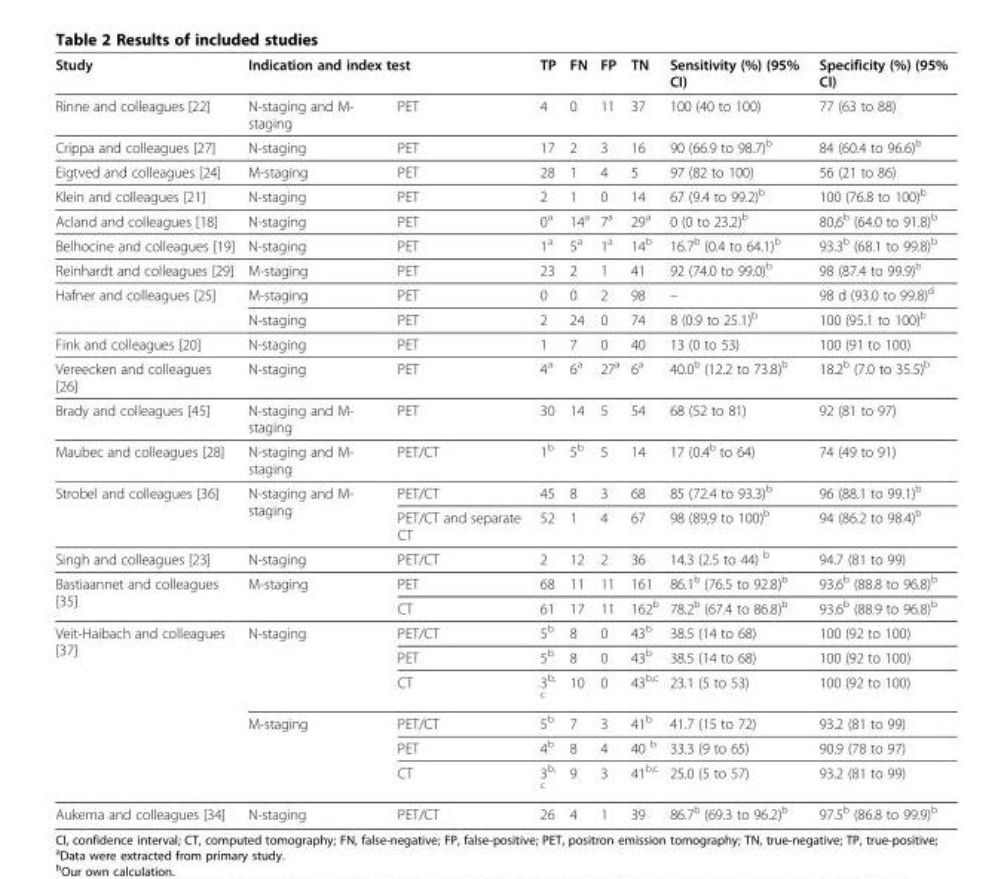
<table><thead><tr><td rowspan="2">Study Rinne and colleagues [22]</td><td colspan="2">Indication and index test</td><td rowspan="2">TP 4</td><td rowspan="2">FN 0</td><td rowspan="2">FP 11</td><td rowspan="2">TN 37</td><td rowspan="2">Sensitivity (%) (95% CI) 100 (40 to 100)</td><td rowspan="2">Specificity (%) (95% CI) 77 (63 to 88)</td></tr><tr><td>N-staging and M- staging</td><td>PET</td></tr></thead><tbody><tr><td>Crippa and colleagues [27]</td><td>N-staging</td><td>PET</td><td>17</td><td>2</td><td>3</td><td>16</td><td>90 (66.9 to 98.7)<sup>b</sup></td><td>84 (60.4 to 96.6)<sup>b</sup></td></tr><tr><td>Eigtved and colleagues [24]</td><td>M-staging</td><td>PET</td><td>28</td><td>1</td><td>4</td><td>5</td><td>97 (82 to 100)</td><td>56 (21 to 86)</td></tr><tr><td>Klein and colleagues [21]</td><td>N-staging</td><td>PET</td><td>2</td><td>1</td><td>0</td><td>14</td><td>67 (9.4 to 99.2)<sup>b</sup></td><td>100 (76.8 to 100)<sup>b</sup></td></tr><tr><td>Acland and colleagues [18]</td><td>N-staging</td><td>PET</td><td>0<sup>a</sup></td><td>14<sup>a</sup></td><td>7<sup>a</sup></td><td>29<sup>a</sup></td><td>0 (0 to 23.2)<sup>b</sup></td><td>80,6<sup>b</sup> (64.0 to 91.8)<sup>b</sup></td></tr><tr><td>Belhocine and colleagues [19]</td><td>N-staging</td><td>PET</td><td>1<sup>a</sup></td><td>5<sup>a</sup></td><td>1<sup>a</sup></td><td>14<sup>b</sup></td><td>16.7<sup>b</sup> (0.4 to 64.1)<sup>b</sup></td><td>93.3<sup>b</sup> (68.1 to 99.8)<sup>b</sup></td></tr><tr><td>Reinhardt and colleagues [29]</td><td>M-staging</td><td>PET</td><td>23</td><td>2</td><td>1</td><td>41</td><td>92 (74.0 to 99.0)<sup>b</sup></td><td>98 (87.4 to 99.9)<sup>b</sup></td></tr><tr><td rowspan="2">Hafner and colleagues [25]</td><td>M-staging</td><td>PET</td><td>0</td><td>0</td><td>2</td><td>98</td><td>–</td><td>98 d (93.0 to 99.8)<sup>d</sup></td></tr><tr><td>N-staging</td><td>PET</td><td>2</td><td>24</td><td>0</td><td>74</td><td>8 (0.9 to 25.1)<sup>b</sup></td><td>100 (95.1 to 100)<sup>b</sup></td></tr><tr><td>Fink and colleagues [20]</td><td>N-staging</td><td>PET</td><td>1</td><td>7</td><td>0</td><td>40</td><td>13 (0 to 53)</td><td>100 (91 to 100)</td></tr><tr><td>Vereecken and colleagues [26]</td><td>N-staging</td><td>PET</td><td>4<sup>a</sup></td><td>6<sup>a</sup></td><td>27<sup>a</sup></td><td>6<sup>a</sup></td><td>40.0<sup>b</sup> (12.2 to 73.8)<sup>b</sup></td><td>18.2<sup>b</sup> (7.0 to 35.5)<sup>b</sup></td></tr><tr><td>Brady and colleagues [45]</td><td>N-staging and M- staging</td><td>PET</td><td>30</td><td>14</td><td>5</td><td>54</td><td>68 (52 to 81)</td><td>92 (81 to 97)</td></tr><tr><td>Maubec and colleagues [28]</td><td>N-staging and M- staging</td><td>PET/CT</td><td>1<sup>b</sup></td><td>5<sup>b</sup></td><td>5</td><td>14</td><td>17 (0.4<sup>b</sup> to 64)</td><td>74 (49 to 91)</td></tr><tr><td rowspan="2">Strobel and colleagues [36]</td><td rowspan="2">N-staging and M- staging</td><td>PET/CT</td><td>45</td><td>8</td><td>3</td><td>68</td><td>85 (72.4 to 93.3)<sup>b</sup></td><td>96 (88.1 to 99.1)<sup>b</sup></td></tr><tr><td>PET/CT and separate CT</td><td>52</td><td>1</td><td>4</td><td>67</td><td>98 (89,9 to 100)<sup>b</sup></td><td>94 (86.2 to 98.4)<sup>b</sup></td></tr><tr><td>Singh and colleagues [23]</td><td>N-staging</td><td>PET/CT</td><td>2</td><td>12</td><td>2</td><td>36</td><td>14.3 (2.5 to 44) <sup>b</sup></td><td>94.7 (81 to 99)</td></tr><tr><td rowspan="2">Bastiaannet and colleagues [35]</td><td rowspan="2">M-staging</td><td>PET</td><td>68</td><td>11</td><td>11</td><td>161</td><td>86.1<sup>b</sup> (76.5 to 92.8)<sup>b</sup></td><td>93.6<sup>b</sup> (88.8 to 96.8)<sup>b</sup></td></tr><tr><td>CT</td><td>61</td><td>17</td><td>11</td><td>162<sup>b</sup></td><td>78.2<sup>b</sup> (67.4 to 86.8)<sup>b</sup></td><td>93.6<sup>b</sup> (88.9 to 96.8)<sup>b</sup></td></tr><tr><td rowspan="6">Veit-Haibach and colleagues [37]</td><td rowspan="3">N-staging</td><td>PET/CT</td><td>5<sup>b</sup></td><td>8</td><td>0</td><td>43<sup>b</sup></td><td>38.5 (14 to 68)</td><td>100 (92 to 100)</td></tr><tr><td>PET</td><td>5<sup>b</sup></td><td>8</td><td>0</td><td>43<sup>b</sup></td><td>38.5 (14 to 68)</td><td>100 (92 to 100)</td></tr><tr><td>CT</td><td>3<sup>b, c</sup></td><td>10</td><td>0</td><td>43<sup>b,c</sup></td><td>23.1 (5 to 53)</td><td>100 (92 to 100)</td></tr><tr><td rowspan="3">M-staging</td><td>PET/CT</td><td>5<sup>b</sup></td><td>7</td><td>3</td><td>41<sup>b</sup></td><td>41.7 (15 to 72)</td><td>93.2 (81 to 99)</td></tr><tr><td>PET</td><td>4<sup>b</sup></td><td>8</td><td>4</td><td>40 <sup>b</sup></td><td>33.3 (9 to 65)</td><td>90.9 (78 to 97)</td></tr><tr><td>CT</td><td>3<sup>b, c</sup></td><td>9</td><td>3</td><td>41<sup>b,c</sup></td><td>25.0 (5 to 57)</td><td>93.2 (81 to 99)</td></tr><tr><td>Aukema and colleagues [34]</td><td>N-staging</td><td>PET/CT</td><td>26</td><td>4</td><td>1</td><td>39</td><td>86.7<sup>b</sup> (69.3 to 96.2)<sup>b</sup></td><td>97.5<sup>b</sup> (86.8 to 99.9)<sup>b</sup></td></tr></tbody></table>